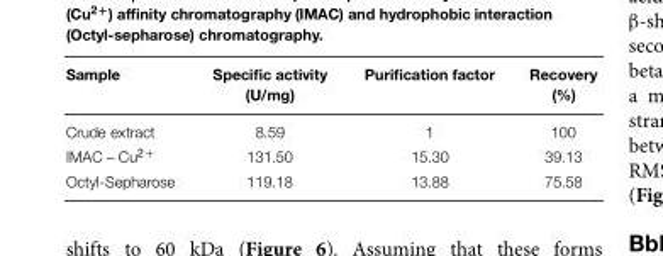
<table><thead><tr><td>Sample</td><td>Specific activity (U/mg)</td><td>Purification factor</td><td>Recovery (%)</td></tr></thead><tbody><tr><td>Crude extract</td><td>8.59</td><td>1</td><td>100</td></tr><tr><td>IMAC – Cu<sup>2+</sup></td><td>131.50</td><td>15.30</td><td>39.13</td></tr><tr><td>Octyl-Sepharose</td><td>119.18</td><td>13.88</td><td>75.58</td></tr></tbody></table>